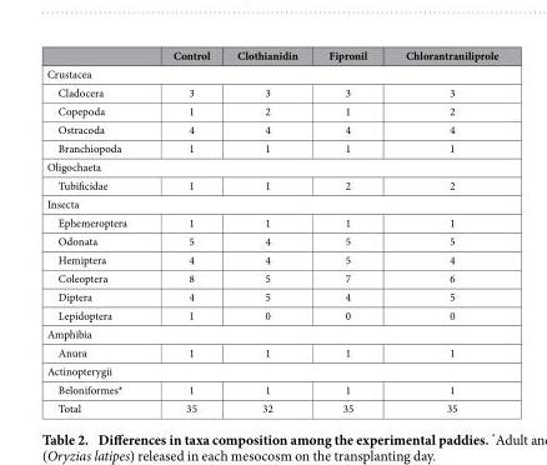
<table><thead><tr><td></td><td>Control</td><td>Clothianidin</td><td>Fipronil</td><td>Chlorantraniliprole</td></tr></thead><tbody><tr><td colspan="5">Crustacea</td></tr><tr><td>Cladocera</td><td>3</td><td>3</td><td>3</td><td>3</td></tr><tr><td>Copepoda</td><td>1</td><td>2</td><td>1</td><td>2</td></tr><tr><td>Ostracoda</td><td>4</td><td>4</td><td>4</td><td>4</td></tr><tr><td>Branchiopoda</td><td>1</td><td>1</td><td>1</td><td>1</td></tr><tr><td colspan="5">Oligochaeta</td></tr><tr><td>Tubificidae</td><td>1</td><td>1</td><td>2</td><td>2</td></tr><tr><td colspan="5">Insecta</td></tr><tr><td>Ephemeroptera</td><td>1</td><td>1</td><td>1</td><td>1</td></tr><tr><td>Odonata</td><td>5</td><td>4</td><td>5</td><td>5</td></tr><tr><td>Hemiptera</td><td>4</td><td>4</td><td>5</td><td>4</td></tr><tr><td>Coleoptera</td><td>8</td><td>5</td><td>7</td><td>6</td></tr><tr><td>Diptera</td><td>4</td><td>5</td><td>4</td><td>5</td></tr><tr><td>Lepidoptera</td><td>1</td><td>0</td><td>0</td><td>0</td></tr><tr><td colspan="5">Amphibia</td></tr><tr><td>Anura</td><td>1</td><td>1</td><td>1</td><td>1</td></tr><tr><td colspan="5">Actinopterygii</td></tr><tr><td>Beloniformes*</td><td>1</td><td>1</td><td>1</td><td>1</td></tr><tr><td>Total</td><td>35</td><td>32</td><td>35</td><td>35</td></tr></tbody></table>